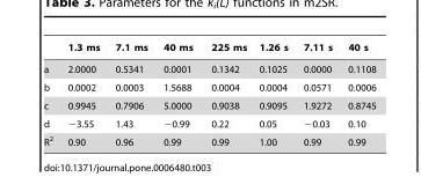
<table><thead><tr><td></td><td>1.3 ms</td><td>7.1 ms</td><td>40 ms</td><td>225 ms</td><td>1.26 s</td><td>7.11 s</td><td>40 s</td></tr></thead><tbody><tr><td>a</td><td>2.0000</td><td>0.5341</td><td>0.0001</td><td>0.1342</td><td>0.1025</td><td>0.0000</td><td>0.1108</td></tr><tr><td>b</td><td>0.0002</td><td>0.0003</td><td>1.5688</td><td>0.0004</td><td>0.0004</td><td>0.0571</td><td>0.0006</td></tr><tr><td>c</td><td>0.9945</td><td>0.7906</td><td>5.0000</td><td>0.9038</td><td>0.9095</td><td>1.9272</td><td>0.8745</td></tr><tr><td>d</td><td>−3.55</td><td>1.43</td><td>−0.99</td><td>0.22</td><td>0.05</td><td>−0.03</td><td>0.10</td></tr><tr><td>R<sup>2</sup></td><td>0.90</td><td>0.96</td><td>0.99</td><td>0.99</td><td>1.00</td><td>0.99</td><td>0.99</td></tr></tbody></table>